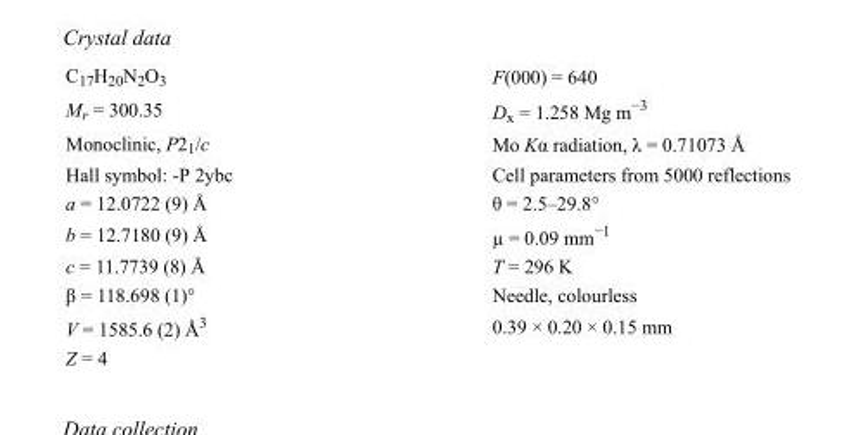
<table><tbody><tr><td>C<sub>17</sub>H<sub>20</sub>N<sub>2</sub>O<sub>3</sub></td><td>F(000) = 640</td></tr><tr><td>M<sub>r</sub> = 300.35</td><td>D<sub>x</sub> = 1.258 Mg m<sup>−3</sup></td></tr><tr><td>Monoclinic, P2<sub>1</sub>/c</td><td>Mo Kα radiation, λ = 0.71073 Å</td></tr><tr><td>Hall symbol: -P 2ybc</td><td>Cell parameters from 5000 reflections</td></tr><tr><td>a = 12.0722 (9) Å</td><td>θ = 2.5–29.8°</td></tr><tr><td>b = 12.7180 (9) Å</td><td>µ = 0.09 mm<sup>−1</sup></td></tr><tr><td>c = 11.7739 (8) Å</td><td>T = 296 K</td></tr><tr><td>β = 118.698 (1)°</td><td>Needle, colourless</td></tr><tr><td>V = 1585.6 (2) Å<sup>3</sup></td><td>0.39 × 0.20 × 0.15 mm</td></tr><tr><td>Z = 4</td><td></td></tr></tbody></table>